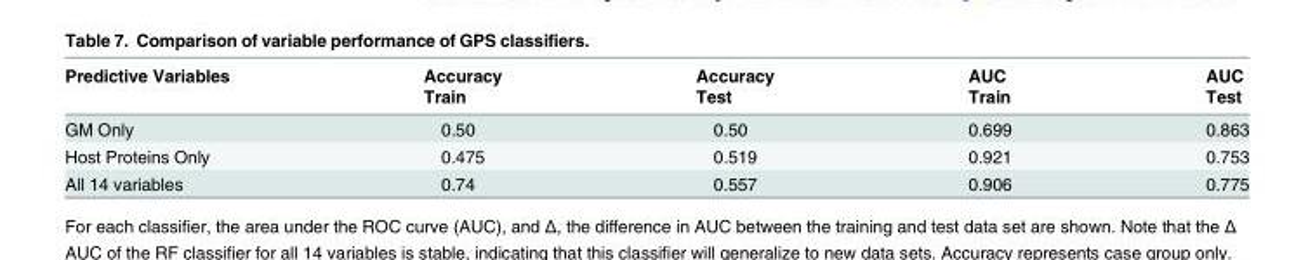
<table><thead><tr><td rowspan="2">Predictive Variables</td><td rowspan="2">Accuracy Train</td><td rowspan="2">Accuracy Test</td><td rowspan="2">AUC Train</td><td rowspan="2">AUC Test</td></tr><tr></tr></thead><tbody><tr><td>GM Only</td><td>0.50</td><td>0.50</td><td>0.699</td><td>0.863</td></tr><tr><td>Host Proteins Only</td><td>0.475</td><td>0.519</td><td>0.921</td><td>0.753</td></tr><tr><td>All 14 variables</td><td>0.74</td><td>0.557</td><td>0.906</td><td>0.775</td></tr></tbody></table>